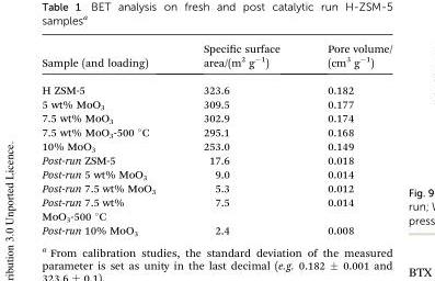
<table><thead><tr><td>Sample (and loading)</td><td>Specic surface area/(m2 g�1)</td><td>Pore volume/ (cm<sup>3</sup> g<sup>–1</sup>)</td></tr></thead><tbody><tr><td>H ZSM-5</td><td>323.6</td><td>0.182</td></tr><tr><td>5 wt% MoO<sub>3</sub></td><td>309.5</td><td>0.177</td></tr><tr><td>7.5 wt% MoO<sub>3</sub></td><td>302.9</td><td>0.174</td></tr><tr><td>7.5 wt% MoO<sub>3</sub>-500 °C</td><td>295.1</td><td>0.168</td></tr><tr><td>10% MoO<sub>3</sub></td><td>253.0</td><td>0.149</td></tr><tr><td>Post-run ZSM-5</td><td>17.6</td><td>0.018</td></tr><tr><td>Post-run 5 wt% MoO<sub>3</sub></td><td>9.0</td><td>0.014</td></tr><tr><td>Post-run 7.5 wt% MoO<sub>3</sub></td><td>5.3</td><td>0.012</td></tr><tr><td>Post-run 7.5 wt% MoO<sub>3</sub>-500 °C</td><td>7.5</td><td>0.014</td></tr><tr><td>Post-run 10% MoO<sub>3</sub></td><td>2.4</td><td>0.008</td></tr></tbody></table>